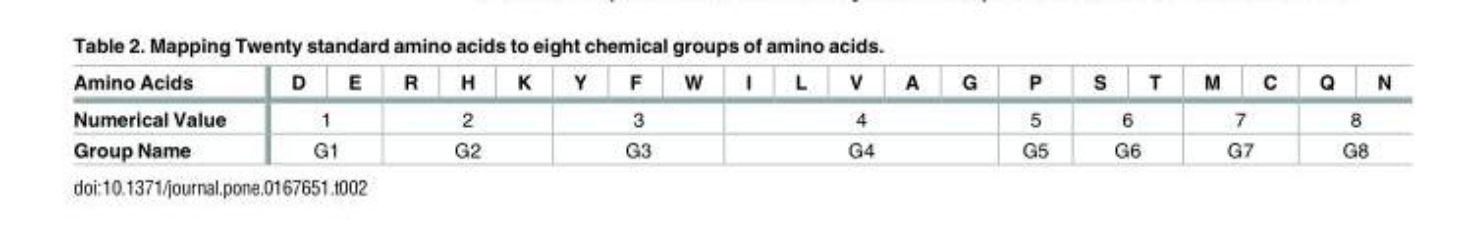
<table><thead><tr><td>Amino Acids</td><td>D</td><td>E</td><td>R</td><td>H</td><td>K</td><td>Y</td><td>F</td><td>W</td><td>I</td><td>L</td><td>V</td><td>A</td><td>G</td><td>P</td><td>S</td><td>T</td><td>M</td><td>C</td><td>Q</td><td>N</td></tr></thead><tbody><tr><td>Numerical Value</td><td colspan="2">1</td><td colspan="3">2</td><td colspan="3">3</td><td colspan="5">4</td><td>5</td><td colspan="2">6</td><td colspan="2">7</td><td colspan="2">8</td></tr><tr><td>Group Name</td><td colspan="2">G1</td><td colspan="3">G2</td><td colspan="3">G3</td><td colspan="5">G4</td><td>G5</td><td colspan="2">G6</td><td colspan="2">G7</td><td colspan="2">G8</td></tr></tbody></table>